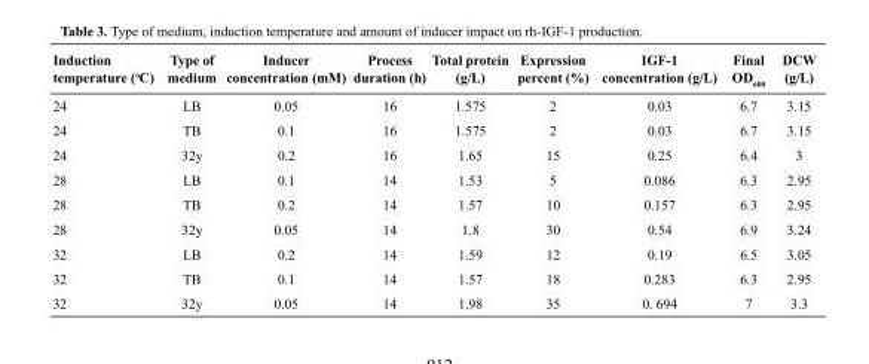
<table><thead><tr><td>DCW (g/L)</td><td>Final OD<sub>600</sub></td><td>IGF-1 concentration (g/L)</td><td>Expression percent (%)</td><td>Total protein (g/L)</td><td>Process duration (h)</td><td>Inducer concentration (mM)</td><td>Type of medium</td><td>Induction temperature (<sup>o</sup>C)</td></tr></thead><tbody><tr><td>3.15</td><td>6.7</td><td>0.03</td><td>2</td><td>1.575</td><td>16</td><td>0.05</td><td>LB</td><td>24</td></tr><tr><td>3.15</td><td>6.7</td><td>0.03</td><td>2</td><td>1.575</td><td>16</td><td>0.1</td><td>TB</td><td>24</td></tr><tr><td>3</td><td>6.4</td><td>0.25</td><td>15</td><td>1.65</td><td>16</td><td>0.2</td><td>32y</td><td>24</td></tr><tr><td>2.95</td><td>6.3</td><td>0.086</td><td>5</td><td>1.53</td><td>14</td><td>0.1</td><td>LB</td><td>28</td></tr><tr><td>2.95</td><td>6.3</td><td>0.157</td><td>10</td><td>1.57</td><td>14</td><td>0.2</td><td>TB</td><td>28</td></tr><tr><td>3.24</td><td>6.9</td><td>0.54</td><td>30</td><td>1.8</td><td>14</td><td>0.05</td><td>32y</td><td>28</td></tr><tr><td>3.05</td><td>6.5</td><td>0.19</td><td>12</td><td>1.59</td><td>14</td><td>0.2</td><td>LB</td><td>32</td></tr><tr><td>2.95</td><td>6.3</td><td>0.283</td><td>18</td><td>1.57</td><td>14</td><td>0.1</td><td>TB</td><td>32</td></tr><tr><td>3.3</td><td>7</td><td>0. 694</td><td>35</td><td>1.98</td><td>14</td><td>0.05</td><td>32y</td><td>32</td></tr></tbody></table>